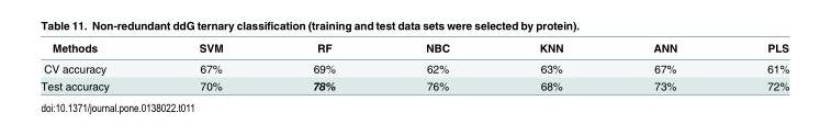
<table><thead><tr><td>Methods</td><td>SVM</td><td>RF</td><td>NBC</td><td>KNN</td><td>ANN</td><td>PLS</td></tr></thead><tbody><tr><td>CV accuracy</td><td>67%</td><td>69%</td><td>62%</td><td>63%</td><td>67%</td><td>61%</td></tr><tr><td>Test accuracy</td><td>70%</td><td>78%</td><td>76%</td><td>68%</td><td>73%</td><td>72%</td></tr></tbody></table>